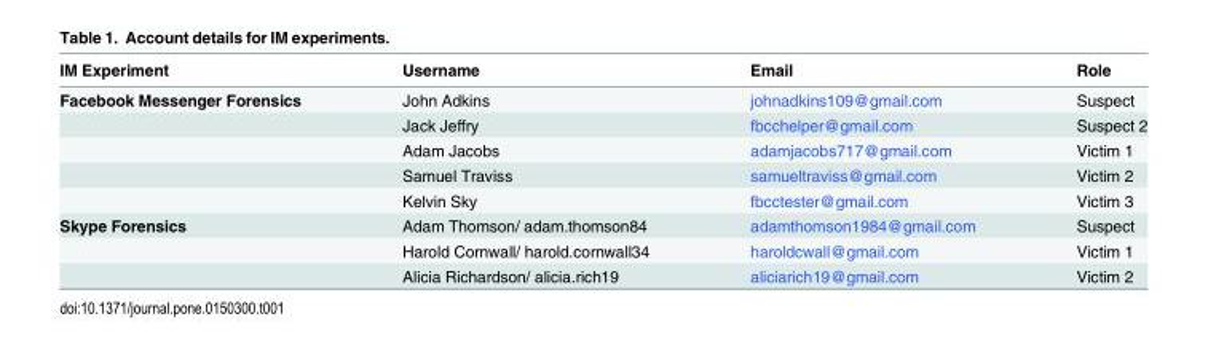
<table><thead><tr><td>IM Experiment</td><td>Username</td><td>Email</td><td>Role</td></tr></thead><tbody><tr><td rowspan="5">Facebook Messenger Forensics</td><td>John Adkins</td><td>johnadkins109@gmail.com</td><td>Suspect</td></tr><tr><td>Jack Jeffry</td><td>fbcchelper@gmail.com</td><td>Suspect 2</td></tr><tr><td>Adam Jacobs</td><td>adamjacobs717@gmail.com</td><td>Victim 1</td></tr><tr><td>Samuel Traviss</td><td>samueltraviss@gmail.com</td><td>Victim 2</td></tr><tr><td>Kelvin Sky</td><td>fbcctester@gmail.com</td><td>Victim 3</td></tr><tr><td rowspan="3">Skype Forensics</td><td>Adam Thomson/ adam.thomson84</td><td>adamthomson1984@gmail.com</td><td>Suspect</td></tr><tr><td>Harold Cornwall/ harold.cornwall34</td><td>haroldcwall@gmail.com</td><td>Victim 1</td></tr><tr><td>Alicia Richardson/ alicia.rich19</td><td>aliciarich19@gmail.com</td><td>Victim 2</td></tr></tbody></table>